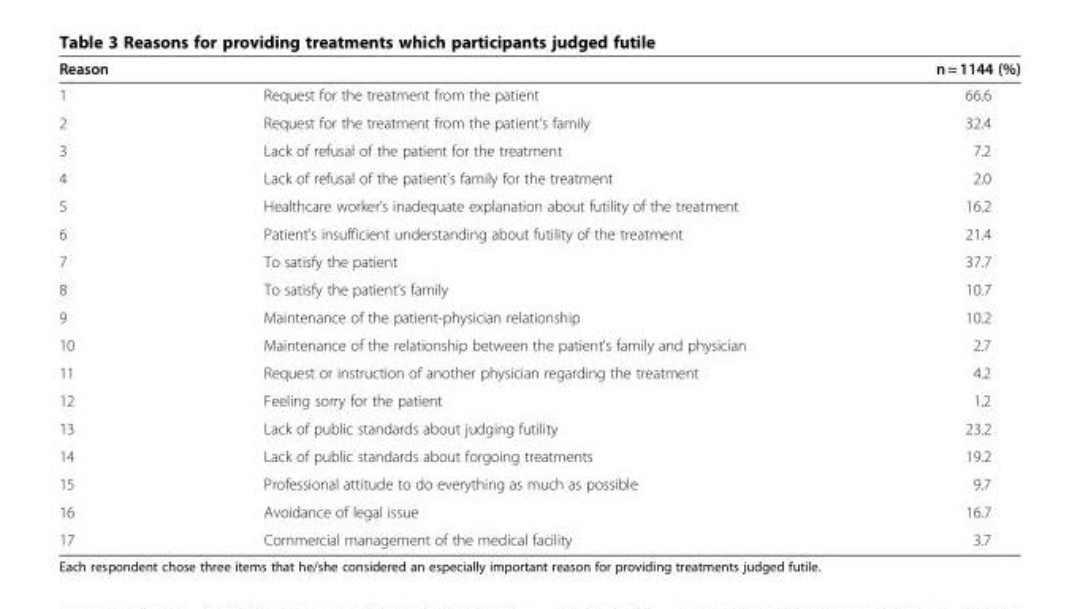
<table><thead><tr><td colspan="2">Reason</td><td rowspan="2">n = 1144 (%) 66.6</td></tr><tr><td>1</td><td>Request for the treatment from the patient</td></tr></thead><tbody><tr><td>2</td><td>Request for the treatment from the patient’s family</td><td>32.4</td></tr><tr><td>3</td><td>Lack of refusal of the patient for the treatment</td><td>7.2</td></tr><tr><td>4</td><td>Lack of refusal of the patient’s family for the treatment</td><td>2.0</td></tr><tr><td>5</td><td>Healthcare worker’s inadequate explanation about futility of the treatment</td><td>16.2</td></tr><tr><td>6</td><td>Patient’s insufficient understanding about futility of the treatment</td><td>21.4</td></tr><tr><td>7</td><td>To satisfy the patient</td><td>37.7</td></tr><tr><td>8</td><td>To satisfy the patient’s family</td><td>10.7</td></tr><tr><td>9</td><td>Maintenance of the patient-physician relationship</td><td>10.2</td></tr><tr><td>10</td><td>Maintenance of the relationship between the patient’s family and physician</td><td>2.7</td></tr><tr><td>11</td><td>Request or instruction of another physician regarding the treatment</td><td>4.2</td></tr><tr><td>12</td><td>Feeling sorry for the patient</td><td>1.2</td></tr><tr><td>13</td><td>Lack of public standards about judging futility</td><td>23.2</td></tr><tr><td>14</td><td>Lack of public standards about forgoing treatments</td><td>19.2</td></tr><tr><td>15</td><td>Professional attitude to do everything as much as possible</td><td>9.7</td></tr><tr><td>16</td><td>Avoidance of legal issue</td><td>16.7</td></tr><tr><td>17</td><td>Commercial management of the medical facility</td><td>3.7</td></tr></tbody></table>